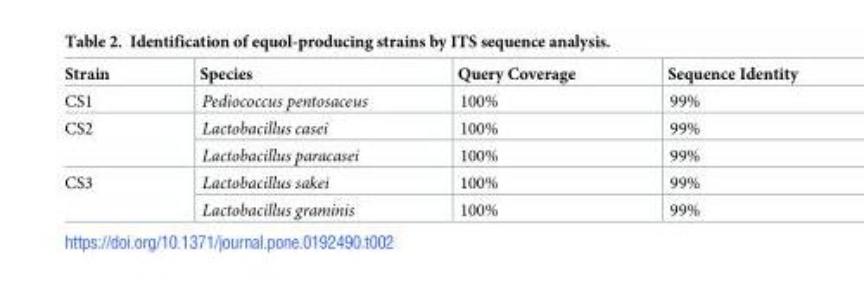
<table><thead><tr><td>Strain</td><td>Species</td><td>Query Coverage</td><td>Sequence Identity</td></tr></thead><tbody><tr><td>CS1</td><td>Pediococcus pentosaceus</td><td>100%</td><td>99%</td></tr><tr><td rowspan="2">CS2</td><td>Lactobacillus casei</td><td>100%</td><td>99%</td></tr><tr><td>Lactobacillus paracasei</td><td>100%</td><td>99%</td></tr><tr><td rowspan="2">CS3</td><td>Lactobacillus sakei</td><td>100%</td><td>99%</td></tr><tr><td>Lactobacillus graminis</td><td>100%</td><td>99%</td></tr></tbody></table>